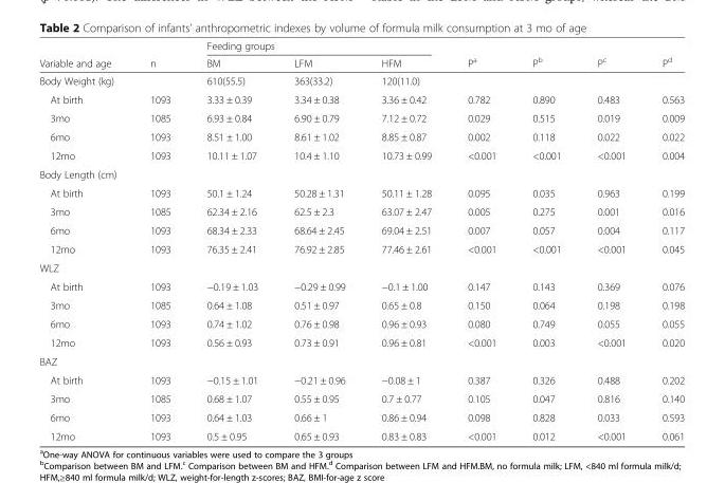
<table><thead><tr><td rowspan="2">Variable and age</td><td rowspan="2">n</td><td colspan="3">Feeding groups</td><td rowspan="2">P<sup>a</sup></td><td rowspan="2">P<sup>b</sup></td><td rowspan="2">P<sup>c</sup></td><td rowspan="2">P<sup>d</sup></td></tr><tr><td>BM</td><td>LFM</td><td>HFM</td></tr></thead><tbody><tr><td>Body Weight (kg)</td><td></td><td>610(55.5)</td><td>363(33.2)</td><td>120(11.0)</td><td colspan="4"></td></tr><tr><td>At birth</td><td>1093</td><td>3.33 ± 0.39</td><td>3.34 ± 0.38</td><td>3.36 ± 0.42</td><td>0.782</td><td>0.890</td><td>0.483</td><td>0.563</td></tr><tr><td>3mo</td><td>1085</td><td>6.93 ± 0.84</td><td>6.90 ± 0.79</td><td>7.12 ± 0.72</td><td>0.029</td><td>0.515</td><td>0.019</td><td>0.009</td></tr><tr><td>6mo</td><td>1093</td><td>8.51 ± 1.00</td><td>8.61 ± 1.02</td><td>8.85 ± 0.87</td><td>0.002</td><td>0.118</td><td>0.022</td><td>0.022</td></tr><tr><td>12mo</td><td>1093</td><td>10.11 ± 1.07</td><td>10.4 ± 1.10</td><td>10.73 ± 0.99</td><td>&lt;0.001</td><td>&lt;0.001</td><td>&lt;0.001</td><td>0.004</td></tr><tr><td colspan="9">Body Length (cm)</td></tr><tr><td>At birth</td><td>1093</td><td>50.1 ± 1.24</td><td>50.28 ± 1.31</td><td>50.11 ± 1.28</td><td>0.095</td><td>0.035</td><td>0.963</td><td>0.199</td></tr><tr><td>3mo</td><td>1085</td><td>62.34 ± 2.16</td><td>62.5 ± 2.3</td><td>63.07 ± 2.47</td><td>0.005</td><td>0.275</td><td>0.001</td><td>0.016</td></tr><tr><td>6mo</td><td>1093</td><td>68.34 ± 2.33</td><td>68.64 ± 2.45</td><td>69.04 ± 2.51</td><td>0.007</td><td>0.057</td><td>0.004</td><td>0.117</td></tr><tr><td>12mo</td><td>1093</td><td>76.35 ± 2.41</td><td>76.92 ± 2.85</td><td>77.46 ± 2.61</td><td>&lt;0.001</td><td>&lt;0.001</td><td>&lt;0.001</td><td>0.045</td></tr><tr><td colspan="9">WLZ</td></tr><tr><td>At birth</td><td>1093</td><td>−0.19 ± 1.03</td><td>−0.29 ± 0.99</td><td>−0.1 ± 1.00</td><td>0.147</td><td>0.143</td><td>0.369</td><td>0.076</td></tr><tr><td>3mo</td><td>1085</td><td>0.64 ± 1.08</td><td>0.51 ± 0.97</td><td>0.65 ± 0.8</td><td>0.150</td><td>0.064</td><td>0.198</td><td>0.198</td></tr><tr><td>6mo</td><td>1093</td><td>0.74 ± 1.02</td><td>0.76 ± 0.98</td><td>0.96 ± 0.93</td><td>0.080</td><td>0.749</td><td>0.055</td><td>0.055</td></tr><tr><td>12mo</td><td>1093</td><td>0.56 ± 0.93</td><td>0.73 ± 0.91</td><td>0.96 ± 0.81</td><td>&lt;0.001</td><td>0.003</td><td>&lt;0.001</td><td>0.020</td></tr><tr><td colspan="9">BAZ</td></tr><tr><td>At birth</td><td>1093</td><td>−0.15 ± 1.01</td><td>−0.21 ± 0.96</td><td>−0.08 ± 1</td><td>0.387</td><td>0.326</td><td>0.488</td><td>0.202</td></tr><tr><td>3mo</td><td>1085</td><td>0.68 ± 1.07</td><td>0.55 ± 0.95</td><td>0.7 ± 0.77</td><td>0.105</td><td>0.047</td><td>0.816</td><td>0.140</td></tr><tr><td>6mo</td><td>1093</td><td>0.64 ± 1.03</td><td>0.66 ± 1</td><td>0.86 ± 0.94</td><td>0.098</td><td>0.828</td><td>0.033</td><td>0.593</td></tr><tr><td>12mo</td><td>1093</td><td>0.5 ± 0.95</td><td>0.65 ± 0.93</td><td>0.83 ± 0.83</td><td>&lt;0.001</td><td>0.012</td><td>&lt;0.001</td><td>0.061</td></tr></tbody></table>